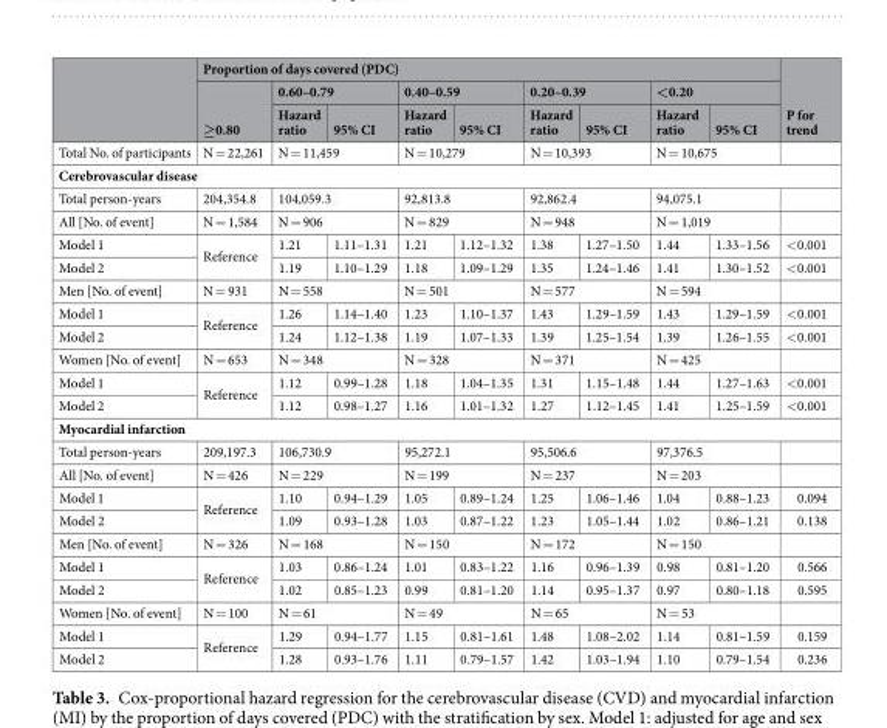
<table><thead><tr><td rowspan="3"></td><td colspan="9">Proportion of days covered (PDC)</td><td rowspan="3">P for trend</td></tr><tr><td rowspan="2">≥0.80</td><td colspan="2">0.60–0.79</td><td colspan="2">0.40–0.59</td><td colspan="2">0.20–0.39</td><td colspan="2">&lt;0.20</td></tr><tr><td>Hazard ratio</td><td>95% CI</td><td>Hazard ratio</td><td>95% CI</td><td>Hazard ratio</td><td>95% CI</td><td>Hazard ratio</td><td>95% CI</td></tr></thead><tbody><tr><td>Total No. of participants</td><td>N = 22,261</td><td colspan="2">N = 11,459</td><td colspan="2">N = 10,279</td><td colspan="2">N = 10,393</td><td colspan="2">N = 10,675</td><td></td></tr><tr><td colspan="11">Cerebrovascular disease</td></tr><tr><td>Total person-years</td><td>204,354.8</td><td colspan="2">104,059.3</td><td colspan="2">92,813.8</td><td colspan="2">92,862.4</td><td colspan="2">94,075.1</td><td></td></tr><tr><td>All [No. of event]</td><td>N = 1,584</td><td colspan="2">N = 906</td><td colspan="2">N = 829</td><td colspan="2">N = 948</td><td colspan="2">N = 1,019</td><td></td></tr><tr><td>Model 1</td><td rowspan="2">Reference</td><td>1.21</td><td>1.11–1.31</td><td>1.21</td><td>1.12–1.32</td><td>1.38</td><td>1.27–1.50</td><td>1.44</td><td>1.33–1.56</td><td>&lt;0.001</td></tr><tr><td>Model 2</td><td>1.19</td><td>1.10–1.29</td><td>1.18</td><td>1.09–1.29</td><td>1.35</td><td>1.24–1.46</td><td>1.41</td><td>1.30–1.52</td><td>&lt;0.001</td></tr><tr><td>Men [No. of event]</td><td>N = 931</td><td colspan="2">N = 558</td><td colspan="2">N = 501</td><td colspan="2">N = 577</td><td colspan="2">N = 594</td><td></td></tr><tr><td>Model 1</td><td rowspan="2">Reference</td><td>1.26</td><td>1.14–1.40</td><td>1.23</td><td>1.10–1.37</td><td>1.43</td><td>1.29–1.59</td><td>1.43</td><td>1.29–1.59</td><td>&lt;0.001</td></tr><tr><td>Model 2</td><td>1.24</td><td>1.12–1.38</td><td>1.19</td><td>1.07–1.33</td><td>1.39</td><td>1.25–1.54</td><td>1.39</td><td>1.26–1.55</td><td>&lt;0.001</td></tr><tr><td>Women [No. of event]</td><td>N = 653</td><td colspan="2">N = 348</td><td colspan="2">N = 328</td><td colspan="2">N = 371</td><td colspan="2">N = 425</td><td></td></tr><tr><td>Model 1</td><td rowspan="2">Reference</td><td>1.12</td><td>0.99–1.28</td><td>1.18</td><td>1.04–1.35</td><td>1.31</td><td>1.15–1.48</td><td>1.44</td><td>1.27–1.63</td><td>&lt;0.001</td></tr><tr><td>Model 2</td><td>1.12</td><td>0.98–1.27</td><td>1.16</td><td>1.01–1.32</td><td>1.27</td><td>1.12–1.45</td><td>1.41</td><td>1.25–1.59</td><td>&lt;0.001</td></tr><tr><td colspan="11">Myocardial infarction</td></tr><tr><td>Total person-years</td><td>209,197.3</td><td colspan="2">106,730.9</td><td colspan="2">95,272.1</td><td colspan="2">95,506.6</td><td colspan="2">97,376.5</td><td></td></tr><tr><td>All [No. of event]</td><td>N = 426</td><td colspan="2">N = 229</td><td colspan="2">N = 199</td><td colspan="2">N = 237</td><td colspan="2">N = 203</td><td></td></tr><tr><td>Model 1</td><td rowspan="2">Reference</td><td>1.10</td><td>0.94–1.29</td><td>1.05</td><td>0.89–1.24</td><td>1.25</td><td>1.06–1.46</td><td>1.04</td><td>0.88–1.23</td><td>0.094</td></tr><tr><td>Model 2</td><td>1.09</td><td>0.93–1.28</td><td>1.03</td><td>0.87–1.22</td><td>1.23</td><td>1.05–1.44</td><td>1.02</td><td>0.86–1.21</td><td>0.138</td></tr><tr><td>Men [No. of event]</td><td>N = 326</td><td colspan="2">N = 168</td><td colspan="2">N = 150</td><td colspan="2">N = 172</td><td colspan="2">N = 150</td><td></td></tr><tr><td>Model 1</td><td rowspan="2">Reference</td><td>1.03</td><td>0.86–1.24</td><td>1.01</td><td>0.83–1.22</td><td>1.16</td><td>0.96–1.39</td><td>0.98</td><td>0.81–1.20</td><td>0.566</td></tr><tr><td>Model 2</td><td>1.02</td><td>0.85–1.23</td><td>0.99</td><td>0.81–1.20</td><td>1.14</td><td>0.95–1.37</td><td>0.97</td><td>0.80–1.18</td><td>0.595</td></tr><tr><td>Women [No. of event]</td><td>N = 100</td><td colspan="2">N = 61</td><td colspan="2">N = 49</td><td colspan="2">N = 65</td><td colspan="2">N = 53</td><td></td></tr><tr><td>Model 1</td><td rowspan="2">Reference</td><td>1.29</td><td>0.94–1.77</td><td>1.15</td><td>0.81–1.61</td><td>1.48</td><td>1.08–2.02</td><td>1.14</td><td>0.81–1.59</td><td>0.159</td></tr><tr><td>Model 2</td><td>1.28</td><td>0.93–1.76</td><td>1.11</td><td>0.79–1.57</td><td>1.42</td><td>1.03–1.94</td><td>1.10</td><td>0.79–1.54</td><td>0.236</td></tr></tbody></table>